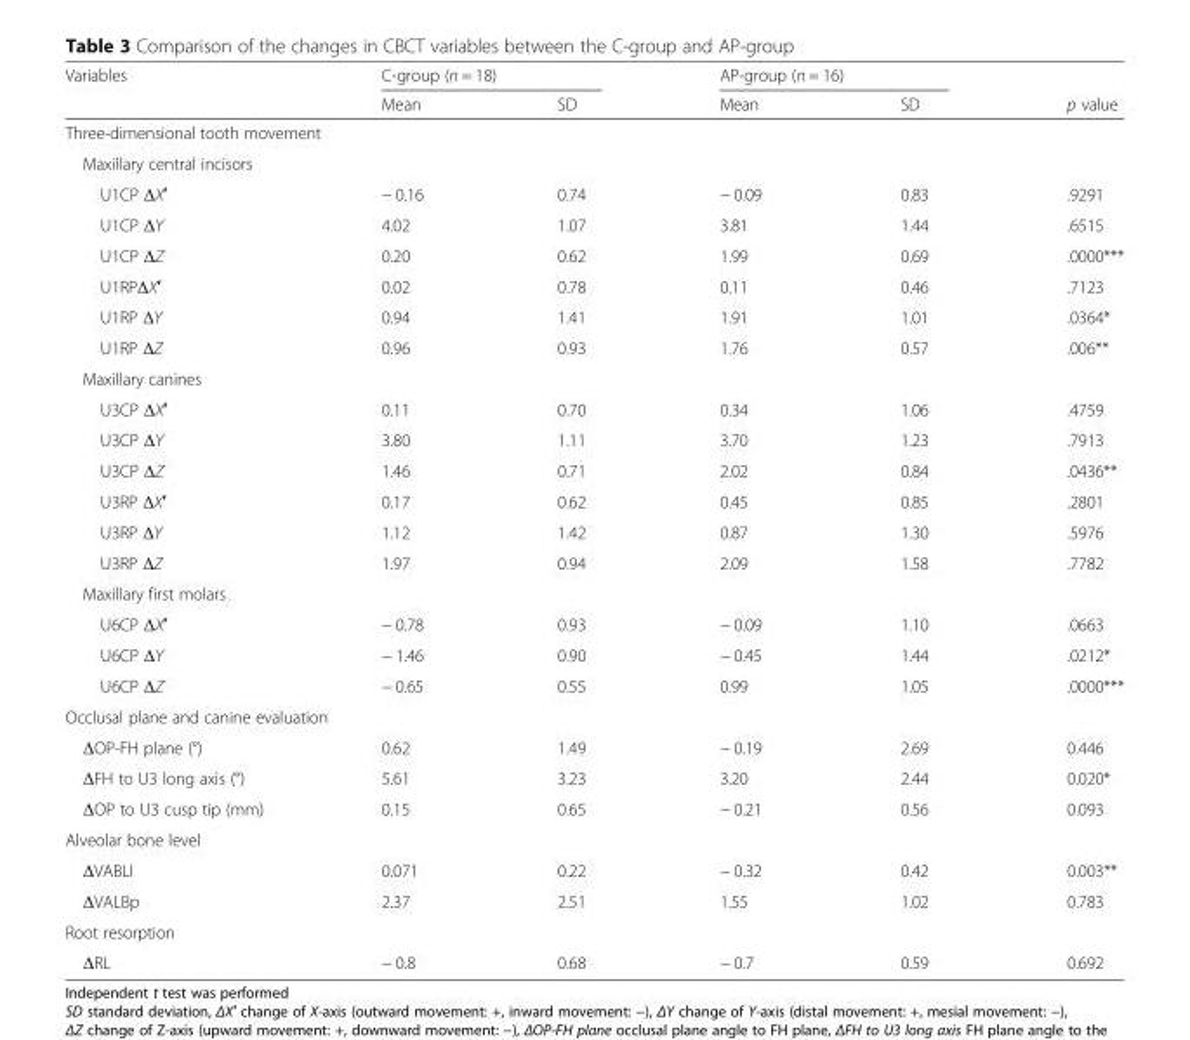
<table><thead><tr><td rowspan="2">Variables</td><td colspan="2">C-group (n = 18)</td><td colspan="2">AP-group (n = 16)</td><td rowspan="2">p value</td></tr><tr><td>Mean</td><td>SD</td><td>Mean</td><td>SD</td></tr></thead><tbody><tr><td colspan="6">Three-dimensional tooth movement</td></tr><tr><td colspan="6">Maxillary central incisors</td></tr><tr><td>U1CP ΔX′</td><td>− 0.16</td><td>0.74</td><td>− 0.09</td><td>0.83</td><td>.9291</td></tr><tr><td>U1CP ΔY</td><td>4.02</td><td>1.07</td><td>3.81</td><td>1.44</td><td>.6515</td></tr><tr><td>U1CP ΔZ</td><td>0.20</td><td>0.62</td><td>1.99</td><td>0.69</td><td>.0000***</td></tr><tr><td>U1RPΔX′</td><td>0.02</td><td>0.78</td><td>0.11</td><td>0.46</td><td>.7123</td></tr><tr><td>U1RP ΔY</td><td>0.94</td><td>1.41</td><td>1.91</td><td>1.01</td><td>.0364*</td></tr><tr><td>U1RP ΔZ</td><td>0.96</td><td>0.93</td><td>1.76</td><td>0.57</td><td>.006**</td></tr><tr><td colspan="6">Maxillary canines</td></tr><tr><td>U3CP ΔX′</td><td>0.11</td><td>0.70</td><td>0.34</td><td>1.06</td><td>.4759</td></tr><tr><td>U3CP ΔY</td><td>3.80</td><td>1.11</td><td>3.70</td><td>1.23</td><td>.7913</td></tr><tr><td>U3CP ΔZ</td><td>1.46</td><td>0.71</td><td>2.02</td><td>0.84</td><td>.0436**</td></tr><tr><td>U3RP ΔX′</td><td>0.17</td><td>0.62</td><td>0.45</td><td>0.85</td><td>.2801</td></tr><tr><td>U3RP ΔY</td><td>1.12</td><td>1.42</td><td>0.87</td><td>1.30</td><td>.5976</td></tr><tr><td>U3RP ΔZ</td><td>1.97</td><td>0.94</td><td>2.09</td><td>1.58</td><td>.7782</td></tr><tr><td colspan="6">Maxillary first molars</td></tr><tr><td>U6CP ΔX′</td><td>− 0.78</td><td>0.93</td><td>− 0.09</td><td>1.10</td><td>.0663</td></tr><tr><td>U6CP ΔY</td><td>− 1.46</td><td>0.90</td><td>− 0.45</td><td>1.44</td><td>.0212*</td></tr><tr><td>U6CP ΔZ</td><td>− 0.65</td><td>0.55</td><td>0.99</td><td>1.05</td><td>.0000***</td></tr><tr><td colspan="6">Occlusal plane and canine evaluation</td></tr><tr><td>ΔOP-FH plane (°)</td><td>0.62</td><td>1.49</td><td>− 0.19</td><td>2.69</td><td>0.446</td></tr><tr><td>ΔFH to U3 long axis (°)</td><td>5.61</td><td>3.23</td><td>3.20</td><td>2.44</td><td>0.020*</td></tr><tr><td>ΔOP to U3 cusp tip (mm)</td><td>0.15</td><td>0.65</td><td>− 0.21</td><td>0.56</td><td>0.093</td></tr><tr><td colspan="6">Alveolar bone level</td></tr><tr><td>ΔVABLl</td><td>0.071</td><td>0.22</td><td>− 0.32</td><td>0.42</td><td>0.003**</td></tr><tr><td>ΔVALBp</td><td>2.37</td><td>2.51</td><td>1.55</td><td>1.02</td><td>0.783</td></tr><tr><td colspan="6">Root resorption</td></tr><tr><td>ΔRL</td><td>− 0.8</td><td>0.68</td><td>− 0.7</td><td>0.59</td><td>0.692</td></tr></tbody></table>